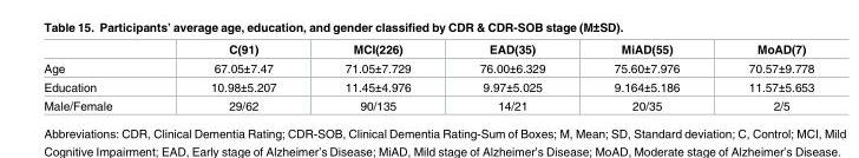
<table><thead><tr><td></td><td>C(91)</td><td>MCI(226)</td><td>EAD(35)</td><td>MiAD(55)</td><td>MoAD(7)</td></tr></thead><tbody><tr><td>Age</td><td>67.05±7.47</td><td>71.05±7.729</td><td>76.00±6.329</td><td>75.60±7.976</td><td>70.57±9.778</td></tr><tr><td>Education</td><td>10.98±5.207</td><td>11.45±4.976</td><td>9.97±5.025</td><td>9.164±5.186</td><td>11.57±5.653</td></tr><tr><td>Male/Female</td><td>29/62</td><td>90/135</td><td>14/21</td><td>20/35</td><td>2/5</td></tr></tbody></table>